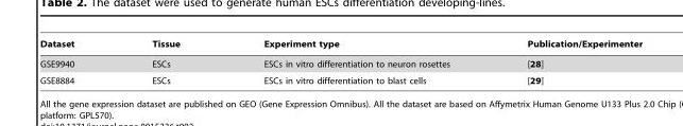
<table><thead><tr><td>Dataset</td><td>Tissue</td><td>Experiment type</td><td>Publication/Experimenter</td></tr></thead><tbody><tr><td>GSE9940</td><td>ESCs</td><td>ESCs in vitro differentiation to neuron rosettes</td><td>[28]</td></tr><tr><td>GSE8884</td><td>ESCs</td><td>ESCs in vitro differentiation to blast cells</td><td>[29]</td></tr></tbody></table>